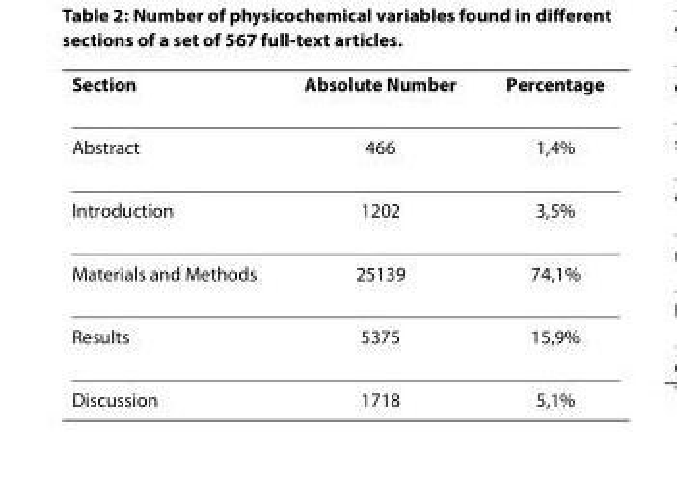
<table><thead><tr><td>Section</td><td>Absolute Number</td><td>Percentage</td></tr></thead><tbody><tr><td>Abstract</td><td>466</td><td>1,4%</td></tr><tr><td>Introduction</td><td>1202</td><td>3,5%</td></tr><tr><td>Materials and Methods</td><td>25139</td><td>74,1%</td></tr><tr><td>Results</td><td>5375</td><td>15,9%</td></tr><tr><td>Discussion</td><td>1718</td><td>5,1%</td></tr></tbody></table>